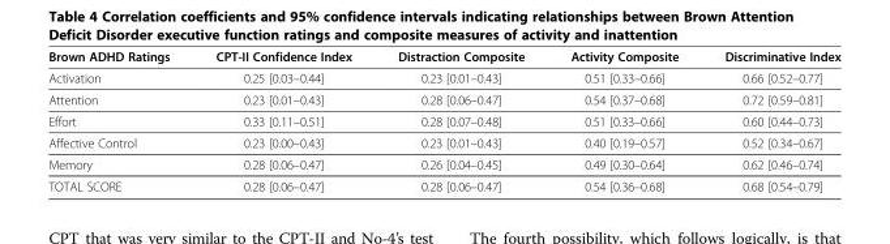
<table><thead><tr><td>Brown ADHD Ratings</td><td>CPT-II Confidence Index</td><td>Distraction Composite</td><td>Activity Composite</td><td>Discriminative Index</td></tr></thead><tbody><tr><td>Activation</td><td>0.25 [0.03–0.44]</td><td>0.23 [0.01–0.43]</td><td>0.51 [0.33–0.66]</td><td>0.66 [0.52–0.77]</td></tr><tr><td>Attention</td><td>0.23 [0.01–0.43]</td><td>0.28 [0.06–0.47]</td><td>0.54 [0.37–0.68]</td><td>0.72 [0.59–0.81]</td></tr><tr><td>Effort</td><td>0.33 [0.11–0.51]</td><td>0.28 [0.07–0.48]</td><td>0.51 [0.33–0.66]</td><td>0.60 [0.44–0.73]</td></tr><tr><td>Affective Control</td><td>0.23 [0.00–0.43]</td><td>0.23 [0.01–0.43]</td><td>0.40 [0.19–0.57]</td><td>0.52 [0.34–0.67]</td></tr><tr><td>Memory</td><td>0.28 [0.06–0.47]</td><td>0.26 [0.04–0.45]</td><td>0.49 [0.30–0.64]</td><td>0.62 [0.46–0.74]</td></tr><tr><td>TOTAL SCORE</td><td>0.28 [0.06–0.47]</td><td>0.28 [0.06–0.47]</td><td>0.54 [0.36–0.68]</td><td>0.68 [0.54–0.79]</td></tr></tbody></table>